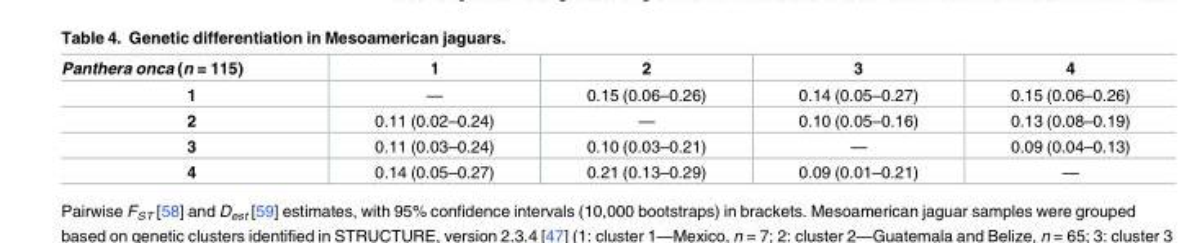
<table><thead><tr><td>Panthera onca (n = 115)</td><td>1</td><td>2</td><td>3</td><td>4</td></tr></thead><tbody><tr><td>1</td><td>—</td><td>0.15 (0.06–0.26)</td><td>0.14 (0.05–0.27)</td><td>0.15 (0.06–0.26)</td></tr><tr><td>2</td><td>0.11 (0.02–0.24)</td><td>—</td><td>0.10 (0.05–0.16)</td><td>0.13 (0.08–0.19)</td></tr><tr><td>3</td><td>0.11 (0.03–0.24)</td><td>0.10 (0.03–0.21)</td><td>—</td><td>0.09 (0.04–0.13)</td></tr><tr><td>4</td><td>0.14 (0.05–0.27)</td><td>0.21 (0.13–0.29)</td><td>0.09 (0.01–0.21)</td><td>—</td></tr></tbody></table>